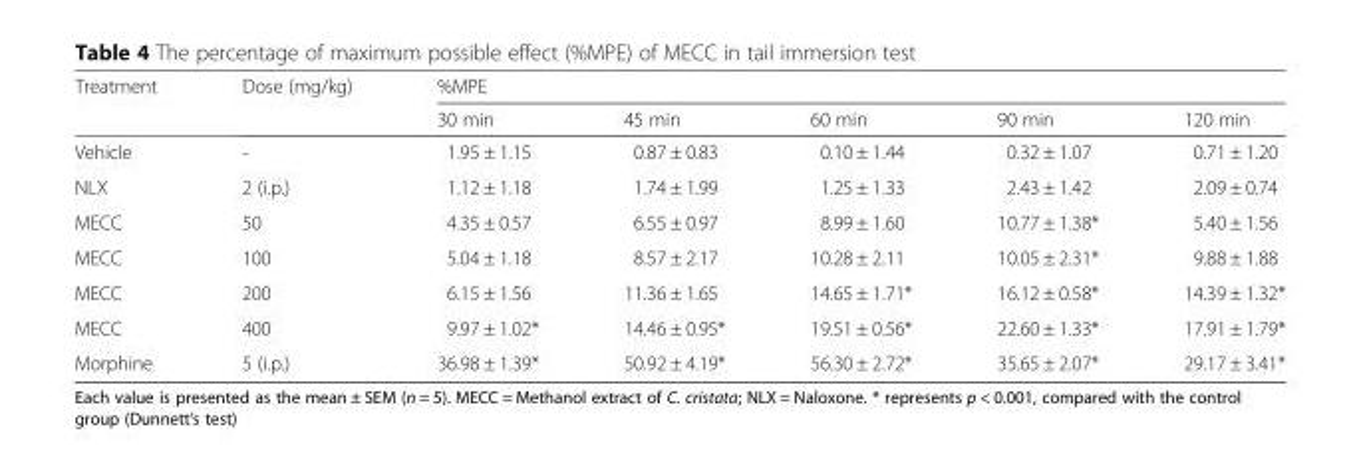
<table><thead><tr><td rowspan="2">Treatment</td><td rowspan="2">Dose (mg/kg)</td><td colspan="5">%MPE</td></tr><tr><td>30 min</td><td>45 min</td><td>60 min</td><td>90 min</td><td>120 min</td></tr></thead><tbody><tr><td>Vehicle</td><td>-</td><td>1.95 ± 1.15</td><td>0.87 ± 0.83</td><td>0.10 ± 1.44</td><td>0.32 ± 1.07</td><td>0.71 ± 1.20</td></tr><tr><td>NLX</td><td>2 (i.p.)</td><td>1.12 ± 1.18</td><td>1.74 ± 1.99</td><td>1.25 ± 1.33</td><td>2.43 ± 1.42</td><td>2.09 ± 0.74</td></tr><tr><td>MECC</td><td>50</td><td>4.35 ± 0.57</td><td>6.55 ± 0.97</td><td>8.99 ± 1.60</td><td>10.77 ± 1.38*</td><td>5.40 ± 1.56</td></tr><tr><td>MECC</td><td>100</td><td>5.04 ± 1.18</td><td>8.57 ± 2.17</td><td>10.28 ± 2.11</td><td>10.05 ± 2.31*</td><td>9.88 ± 1.88</td></tr><tr><td>MECC</td><td>200</td><td>6.15 ± 1.56</td><td>11.36 ± 1.65</td><td>14.65 ± 1.71*</td><td>16.12 ± 0.58*</td><td>14.39 ± 1.32*</td></tr><tr><td>MECC</td><td>400</td><td>9.97 ± 1.02*</td><td>14.46 ± 0.95*</td><td>19.51 ± 0.56*</td><td>22.60 ± 1.33*</td><td>17.91 ± 1.79*</td></tr><tr><td>Morphine</td><td>5 (i.p.)</td><td>36.98 ± 1.39*</td><td>50.92 ± 4.19*</td><td>56.30 ± 2.72*</td><td>35.65 ± 2.07*</td><td>29.17 ± 3.41*</td></tr></tbody></table>